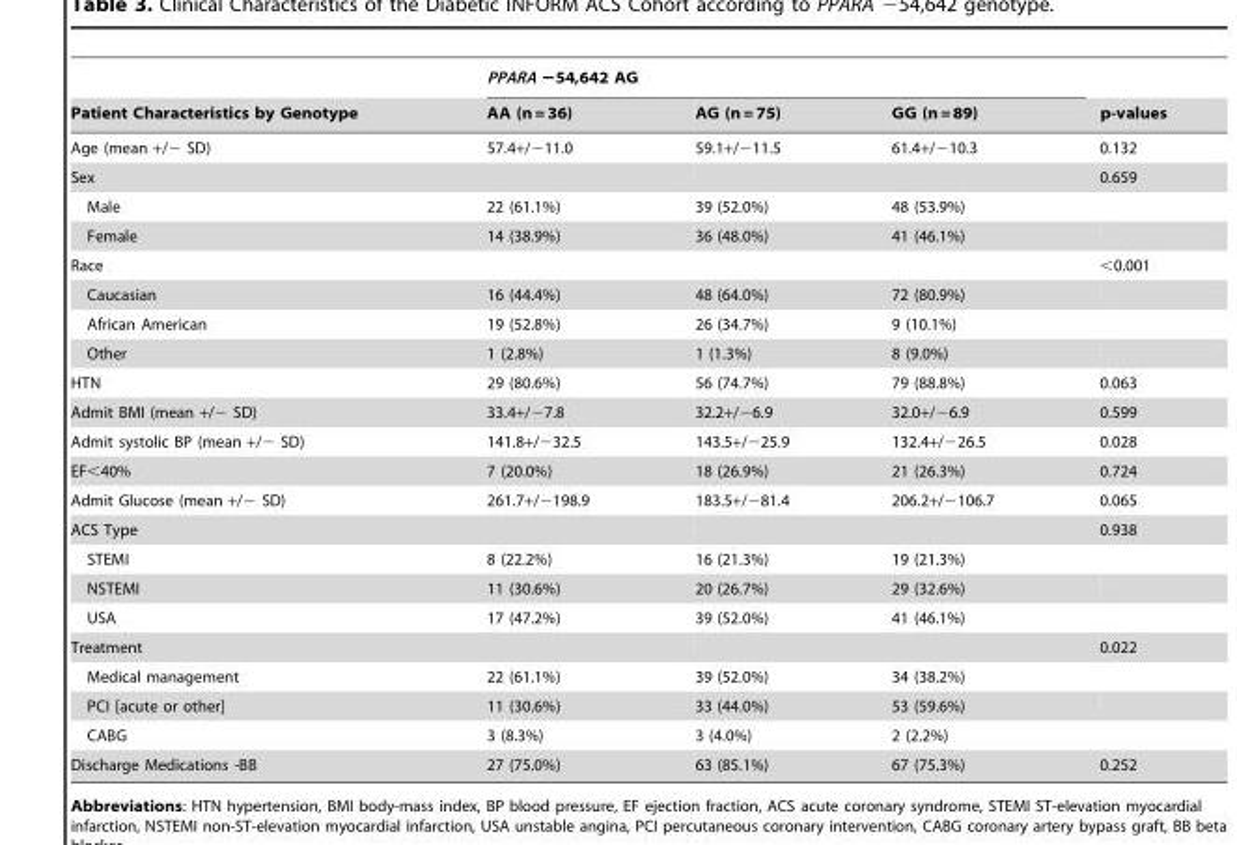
<table><thead><tr><td rowspan="2">Patient Characteristics by Genotype</td><td colspan="3">PPARA −54,642 AG</td><td rowspan="2">p-values</td></tr><tr><td>AA (n = 36)</td><td>AG (n = 75)</td><td>GG (n = 89)</td></tr></thead><tbody><tr><td>Age (mean +/− SD)</td><td>57.4+/−11.0</td><td>59.1+/−11.5</td><td>61.4+/−10.3</td><td>0.132</td></tr><tr><td>Sex</td><td></td><td></td><td></td><td>0.659</td></tr><tr><td>Male</td><td>22 (61.1%)</td><td>39 (52.0%)</td><td>48 (53.9%)</td><td></td></tr><tr><td>Female</td><td>14 (38.9%)</td><td>36 (48.0%)</td><td>41 (46.1%)</td><td></td></tr><tr><td>Race</td><td></td><td></td><td></td><td>&lt;0.001</td></tr><tr><td>Caucasian</td><td>16 (44.4%)</td><td>48 (64.0%)</td><td>72 (80.9%)</td><td></td></tr><tr><td>African American</td><td>19 (52.8%)</td><td>26 (34.7%)</td><td>9 (10.1%)</td><td></td></tr><tr><td>Other</td><td>1 (2.8%)</td><td>1 (1.3%)</td><td>8 (9.0%)</td><td></td></tr><tr><td>HTN</td><td>29 (80.6%)</td><td>56 (74.7%)</td><td>79 (88.8%)</td><td>0.063</td></tr><tr><td>Admit BMI (mean +/− SD)</td><td>33.4+/−7.8</td><td>32.2+/−6.9</td><td>32.0+/−6.9</td><td>0.599</td></tr><tr><td>Admit systolic BP (mean +/− SD)</td><td>141.8+/−32.5</td><td>143.5+/−25.9</td><td>132.4+/−26.5</td><td>0.028</td></tr><tr><td>EF&lt;40%</td><td>7 (20.0%)</td><td>18 (26.9%)</td><td>21 (26.3%)</td><td>0.724</td></tr><tr><td>Admit Glucose (mean +/− SD)</td><td>261.7+/−198.9</td><td>183.5+/−81.4</td><td>206.2+/−106.7</td><td>0.065</td></tr><tr><td>ACS Type</td><td></td><td></td><td></td><td>0.938</td></tr><tr><td>STEMI</td><td>8 (22.2%)</td><td>16 (21.3%)</td><td>19 (21.3%)</td><td></td></tr><tr><td>NSTEMI</td><td>11 (30.6%)</td><td>20 (26.7%)</td><td>29 (32.6%)</td><td></td></tr><tr><td>USA</td><td>17 (47.2%)</td><td>39 (52.0%)</td><td>41 (46.1%)</td><td></td></tr><tr><td>Treatment</td><td></td><td></td><td></td><td>0.022</td></tr><tr><td>Medical management</td><td>22 (61.1%)</td><td>39 (52.0%)</td><td>34 (38.2%)</td><td></td></tr><tr><td>PCI [acute or other]</td><td>11 (30.6%)</td><td>33 (44.0%)</td><td>53 (59.6%)</td><td></td></tr><tr><td>CABG</td><td>3 (8.3%)</td><td>3 (4.0%)</td><td>2 (2.2%)</td><td></td></tr><tr><td>Discharge Medications -BB</td><td>27 (75.0%)</td><td>63 (85.1%)</td><td>67 (75.3%)</td><td>0.252</td></tr></tbody></table>